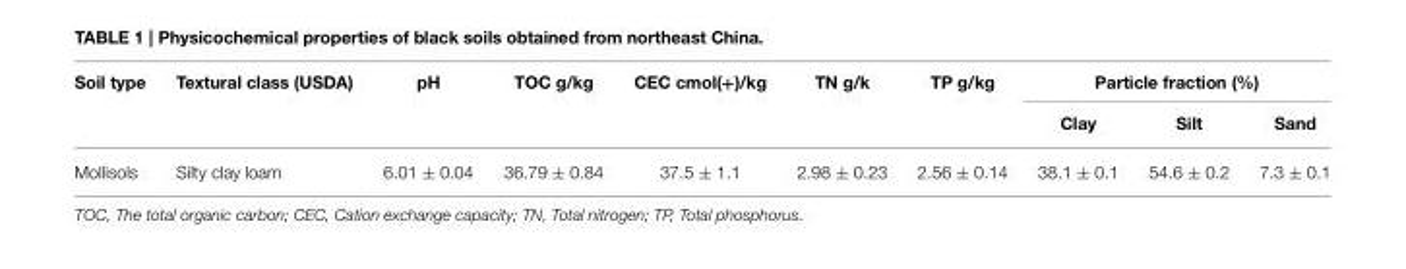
<table><thead><tr><td rowspan="2">Soil type</td><td rowspan="2">Textural class (USDA)</td><td rowspan="2">pH</td><td rowspan="2">TOC g/kg</td><td rowspan="2">CEC cmol(+)/kg</td><td rowspan="2">TN g/k</td><td rowspan="2">TP g/kg</td><td colspan="3">Particle fraction (%)</td></tr><tr><td>Clay</td><td>Silt</td><td>Sand</td></tr></thead><tbody><tr><td>Mollisols</td><td>Silty clay loam</td><td>6.01 ± 0.04</td><td>36.79 ± 0.84</td><td>37.5 ± 1.1</td><td>2.98 ± 0.23</td><td>2.56 ± 0.14</td><td>38.1 ± 0.1</td><td>54.6 ± 0.2</td><td>7.3 ± 0.1</td></tr></tbody></table>